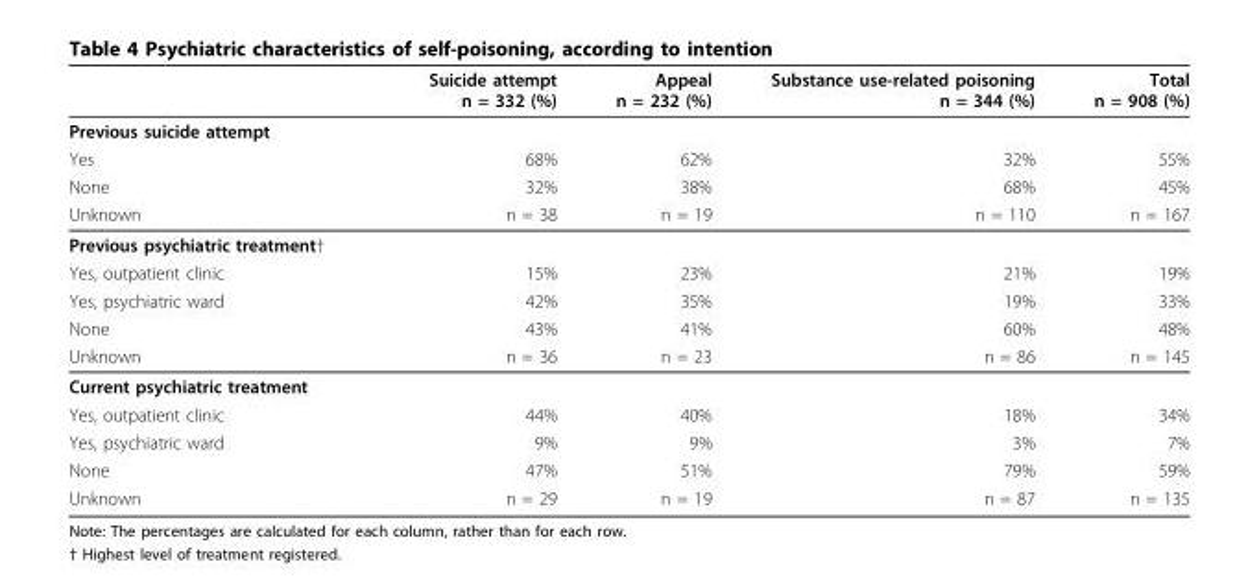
<table><thead><tr><td></td><td>Suicide attempt n = 332 (%)</td><td>Appeal n = 232 (%)</td><td>Substance use-related poisoning n = 344 (%)</td><td>Total n = 908 (%)</td></tr></thead><tbody><tr><td colspan="5">Previous suicide attempt</td></tr><tr><td>Yes</td><td>68%</td><td>62%</td><td>32%</td><td>55%</td></tr><tr><td>None</td><td>32%</td><td>38%</td><td>68%</td><td>45%</td></tr><tr><td>Unknown</td><td>n = 38</td><td>n = 19</td><td>n = 110</td><td>n = 167</td></tr><tr><td colspan="5">Previous psychiatric treatment†</td></tr><tr><td>Yes, outpatient clinic</td><td>15%</td><td>23%</td><td>21%</td><td>19%</td></tr><tr><td>Yes, psychiatric ward</td><td>42%</td><td>35%</td><td>19%</td><td>33%</td></tr><tr><td>None</td><td>43%</td><td>41%</td><td>60%</td><td>48%</td></tr><tr><td>Unknown</td><td>n = 36</td><td>n = 23</td><td>n = 86</td><td>n = 145</td></tr><tr><td colspan="5">Current psychiatric treatment</td></tr><tr><td>Yes, outpatient clinic</td><td>44%</td><td>40%</td><td>18%</td><td>34%</td></tr><tr><td>Yes, psychiatric ward</td><td>9%</td><td>9%</td><td>3%</td><td>7%</td></tr><tr><td>None</td><td>47%</td><td>51%</td><td>79%</td><td>59%</td></tr><tr><td>Unknown</td><td>n = 29</td><td>n = 19</td><td>n = 87</td><td>n = 135</td></tr></tbody></table>